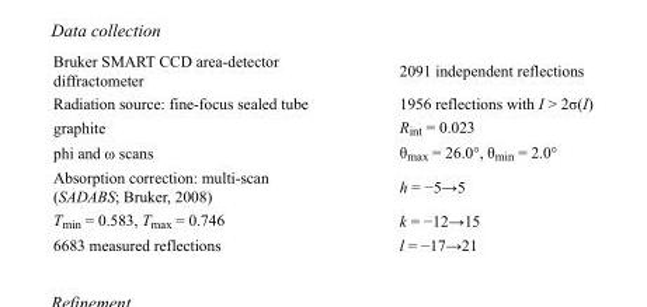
<table><tbody><tr><td>Bruker SMART CCD area-detector diffractometer</td><td>2091 independent reflections</td></tr><tr><td>Radiation source: fine-focus sealed tube</td><td>1956 reflections with I &gt; 2σ(I)</td></tr><tr><td>graphite</td><td>R<sub>int</sub> = 0.023</td></tr><tr><td>phi and ω scans</td><td>θ<sub>max</sub> = 26.0°, θ<sub>min</sub> = 2.0°</td></tr><tr><td>Absorption correction: multi-scan (SADABS; Bruker, 2008)</td><td>h = −5→5</td></tr><tr><td>T<sub>min</sub> = 0.583, T<sub>max</sub> = 0.746</td><td>k = −12→15</td></tr><tr><td>6683 measured reflections</td><td>l = −17→21</td></tr></tbody></table>